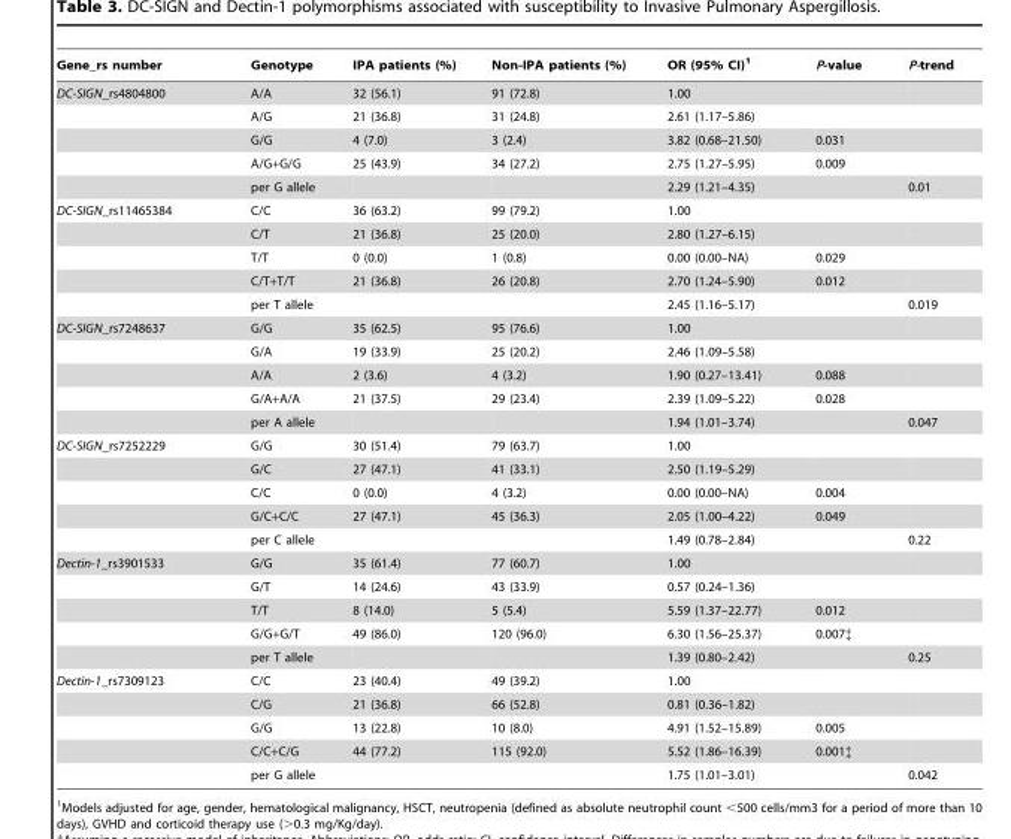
<table><thead><tr><td>Gene_rs number</td><td>Genotype</td><td>IPA patients (%)</td><td>Non-IPA patients (%)</td><td>OR (95% CI)<sup>1</sup></td><td>P-value</td><td>P-trend</td></tr></thead><tbody><tr><td rowspan="5">DC-SIGN_rs4804800</td><td>A/A</td><td>32 (56.1)</td><td>91 (72.8)</td><td>1.00</td><td></td><td></td></tr><tr><td>A/G</td><td>21 (36.8)</td><td>31 (24.8)</td><td>2.61 (1.17–5.86)</td><td></td><td></td></tr><tr><td>G/G</td><td>4 (7.0)</td><td>3 (2.4)</td><td>3.82 (0.68–21.50)</td><td>0.031</td><td></td></tr><tr><td>A/G+G/G</td><td>25 (43.9)</td><td>34 (27.2)</td><td>2.75 (1.27–5.95)</td><td>0.009</td><td></td></tr><tr><td>per G allele</td><td></td><td></td><td>2.29 (1.21–4.35)</td><td></td><td>0.01</td></tr><tr><td rowspan="5">DC-SIGN_rs11465384</td><td>C/C</td><td>36 (63.2)</td><td>99 (79.2)</td><td>1.00</td><td></td><td></td></tr><tr><td>C/T</td><td>21 (36.8)</td><td>25 (20.0)</td><td>2.80 (1.27–6.15)</td><td></td><td></td></tr><tr><td>T/T</td><td>0 (0.0)</td><td>1 (0.8)</td><td>0.00 (0.00–NA)</td><td>0.029</td><td></td></tr><tr><td>C/T+T/T</td><td>21 (36.8)</td><td>26 (20.8)</td><td>2.70 (1.24–5.90)</td><td>0.012</td><td></td></tr><tr><td>per T allele</td><td></td><td></td><td>2.45 (1.16–5.17)</td><td></td><td>0.019</td></tr><tr><td rowspan="5">DC-SIGN_rs7248637</td><td>G/G</td><td>35 (62.5)</td><td>95 (76.6)</td><td>1.00</td><td></td><td></td></tr><tr><td>G/A</td><td>19 (33.9)</td><td>25 (20.2)</td><td>2.46 (1.09–5.58)</td><td></td><td></td></tr><tr><td>A/A</td><td>2 (3.6)</td><td>4 (3.2)</td><td>1.90 (0.27–13.41)</td><td>0.088</td><td></td></tr><tr><td>G/A+A/A</td><td>21 (37.5)</td><td>29 (23.4)</td><td>2.39 (1.09–5.22)</td><td>0.028</td><td></td></tr><tr><td>per A allele</td><td></td><td></td><td>1.94 (1.01–3.74)</td><td></td><td>0.047</td></tr><tr><td rowspan="5">DC-SIGN_rs7252229</td><td>G/G</td><td>30 (51.4)</td><td>79 (63.7)</td><td>1.00</td><td></td><td></td></tr><tr><td>G/C</td><td>27 (47.1)</td><td>41 (33.1)</td><td>2.50 (1.19–5.29)</td><td></td><td></td></tr><tr><td>C/C</td><td>0 (0.0)</td><td>4 (3.2)</td><td>0.00 (0.00–NA)</td><td>0.004</td><td></td></tr><tr><td>G/C+C/C</td><td>27 (47.1)</td><td>45 (36.3)</td><td>2.05 (1.00–4.22)</td><td>0.049</td><td></td></tr><tr><td>per C allele</td><td></td><td></td><td>1.49 (0.78–2.84)</td><td></td><td>0.22</td></tr><tr><td rowspan="5">Dectin-1_rs3901533</td><td>G/G</td><td>35 (61.4)</td><td>77 (60.7)</td><td>1.00</td><td></td><td></td></tr><tr><td>G/T</td><td>14 (24.6)</td><td>43 (33.9)</td><td>0.57 (0.24–1.36)</td><td></td><td></td></tr><tr><td>T/T</td><td>8 (14.0)</td><td>5 (5.4)</td><td>5.59 (1.37–22.77)</td><td>0.012</td><td></td></tr><tr><td>G/G+G/T</td><td>49 (86.0)</td><td>120 (96.0)</td><td>6.30 (1.56–25.37)</td><td>0.007‡</td><td></td></tr><tr><td>per T allele</td><td></td><td></td><td>1.39 (0.80–2.42)</td><td></td><td>0.25</td></tr><tr><td rowspan="5">Dectin-1_rs7309123</td><td>C/C</td><td>23 (40.4)</td><td>49 (39.2)</td><td>1.00</td><td></td><td></td></tr><tr><td>C/G</td><td>21 (36.8)</td><td>66 (52.8)</td><td>0.81 (0.36–1.82)</td><td></td><td></td></tr><tr><td>G/G</td><td>13 (22.8)</td><td>10 (8.0)</td><td>4.91 (1.52–15.89)</td><td>0.005</td><td></td></tr><tr><td>C/C+C/G</td><td>44 (77.2)</td><td>115 (92.0)</td><td>5.52 (1.86–16.39)</td><td>0.001‡</td><td></td></tr><tr><td>per G allele</td><td></td><td></td><td>1.75 (1.01–3.01)</td><td></td><td>0.042</td></tr></tbody></table>